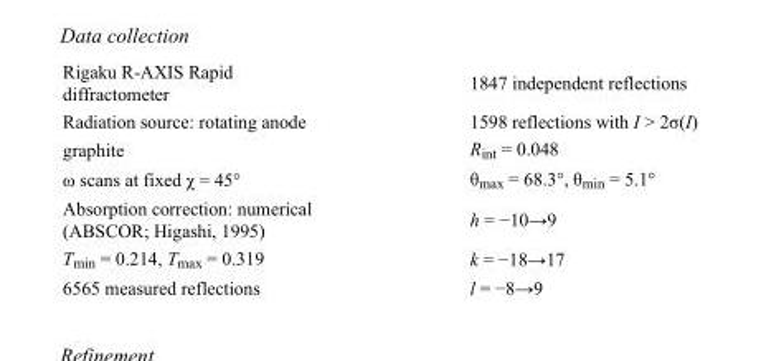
<table><tbody><tr><td>Rigaku R-AXIS Rapid diffractometer</td><td>1847 independent reflections</td></tr><tr><td>Radiation source: rotating anode</td><td>1598 reflections with I &gt; 2σ(I)</td></tr><tr><td>graphite</td><td>R<sub>int</sub> = 0.048</td></tr><tr><td>ω scans at fixed χ = 45°</td><td>θ<sub>max</sub> = 68.3°, θ<sub>min</sub> = 5.1°</td></tr><tr><td>Absorption correction: numerical (ABSCOR; Higashi, 1995)</td><td>h = −10→9</td></tr><tr><td>T<sub>min</sub> = 0.214, T<sub>max</sub> = 0.319</td><td>k = −18→17</td></tr><tr><td>6565 measured reflections</td><td>l = −8→9</td></tr></tbody></table>